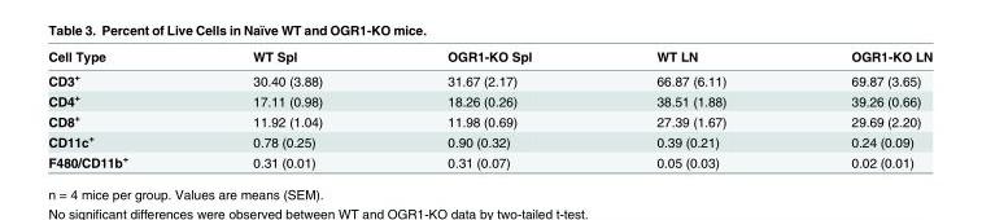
<table><thead><tr><td>Cell Type</td><td>WT Spl</td><td>OGR1-KO Spl</td><td>WT LN</td><td>OGR1-KO LN</td></tr></thead><tbody><tr><td>CD3<sup>+</sup></td><td>30.40 (3.88)</td><td>31.67 (2.17)</td><td>66.87 (6.11)</td><td>69.87 (3.65)</td></tr><tr><td>CD4<sup>+</sup></td><td>17.11 (0.98)</td><td>18.26 (0.26)</td><td>38.51 (1.88)</td><td>39.26 (0.66)</td></tr><tr><td>CD8<sup>+</sup></td><td>11.92 (1.04)</td><td>11.98 (0.69)</td><td>27.39 (1.67)</td><td>29.69 (2.20)</td></tr><tr><td>CD11c<sup>+</sup></td><td>0.78 (0.25)</td><td>0.90 (0.32)</td><td>0.39 (0.21)</td><td>0.24 (0.09)</td></tr><tr><td>F480/CD11b<sup>+</sup></td><td>0.31 (0.01)</td><td>0.31 (0.07)</td><td>0.05 (0.03)</td><td>0.02 (0.01)</td></tr></tbody></table>